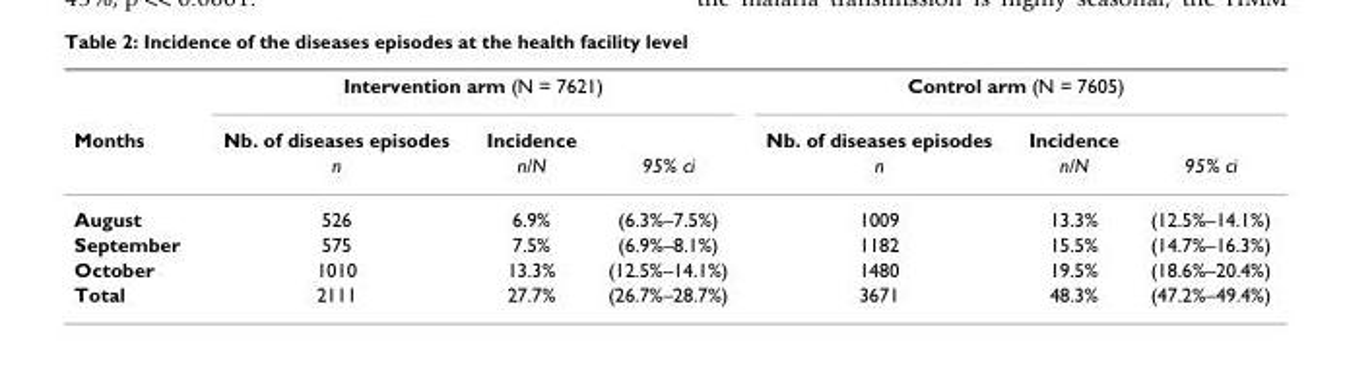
<table><thead><tr><td rowspan="3">Months</td><td colspan="3">Intervention arm (N = 7621)</td><td colspan="3">Control arm (N = 7605)</td></tr><tr><td rowspan="2">Nb. of diseases episodes n</td><td rowspan="2">Incidence n/N</td><td rowspan="2">95% ci</td><td rowspan="2">Nb. of diseases episodes n</td><td rowspan="2">Incidence n/N</td><td rowspan="2">95% ci</td></tr><tr></tr></thead><tbody><tr><td>August</td><td>526</td><td>6.9%</td><td>(6.3%–7.5%)</td><td>1009</td><td>13.3%</td><td>(12.5%–14.1%)</td></tr><tr><td>September</td><td>575</td><td>7.5%</td><td>(6.9%–8.1%)</td><td>1182</td><td>15.5%</td><td>(14.7%–16.3%)</td></tr><tr><td>October</td><td>1010</td><td>13.3%</td><td>(12.5%–14.1%)</td><td>1480</td><td>19.5%</td><td>(18.6%–20.4%)</td></tr><tr><td>Total</td><td>2111</td><td>27.7%</td><td>(26.7%–28.7%)</td><td>3671</td><td>48.3%</td><td>(47.2%–49.4%)</td></tr></tbody></table>